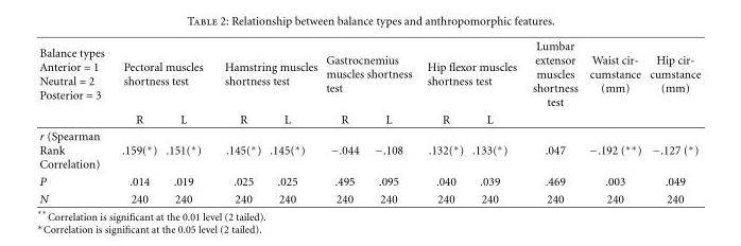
<table><thead><tr><td rowspan="2">Balance types Anterior = 1 Neutral = 2 Posterior = 3</td><td colspan="2">Pectoral muscles shortness test</td><td colspan="2">Hamstring muscles shortness test</td><td colspan="2">Gastrocnemius muscles shortness test</td><td colspan="2">Hip flexor muscles shortness test</td><td rowspan="2">Lumbar extensor muscles shortness test</td><td rowspan="2">Waist cir- cumstance (mm)</td><td rowspan="2">Hip cir- cumstance (mm)</td></tr><tr><td>R</td><td>L</td><td>R</td><td>L</td><td>R</td><td>L</td><td>R</td><td>L</td></tr></thead><tbody><tr><td>r (Spearman Rank Correlation)</td><td>.159(∗)</td><td>.151(∗)</td><td>.145(∗)</td><td>.145(∗)</td><td>−.044</td><td>−.108</td><td>.132(∗)</td><td>.133(∗)</td><td>.047</td><td>−.192 (∗∗)</td><td>−.127 (∗)</td></tr><tr><td>P</td><td>.014</td><td>.019</td><td>.025</td><td>.025</td><td>.495</td><td>.095</td><td>.040</td><td>.039</td><td>.469</td><td>.003</td><td>.049</td></tr><tr><td>N</td><td>240</td><td>240</td><td>240</td><td>240</td><td>240</td><td>240</td><td>240</td><td>240</td><td>240</td><td>240</td><td>240</td></tr></tbody></table>